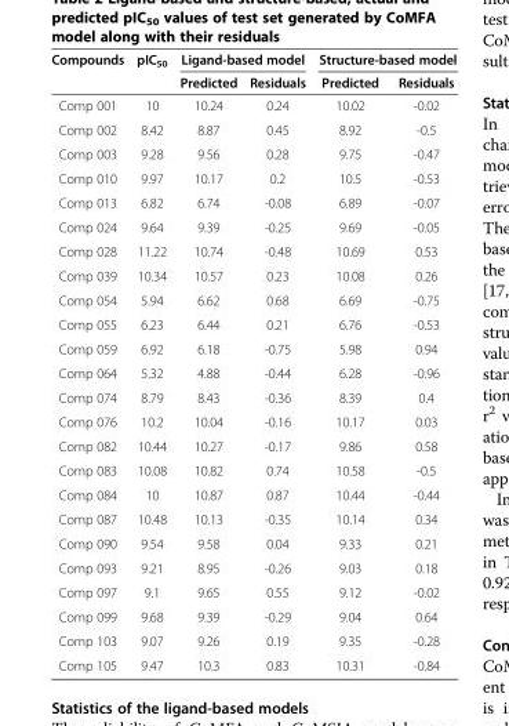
<table><thead><tr><td rowspan="2">Compounds</td><td rowspan="2">pIC<sub>50</sub></td><td colspan="2">Ligand-based model</td><td colspan="2">Structure-based model</td></tr><tr><td>Predicted</td><td>Residuals</td><td>Predicted</td><td>Residuals</td></tr></thead><tbody><tr><td>Comp 001</td><td>10</td><td>10.24</td><td>0.24</td><td>10.02</td><td>-0.02</td></tr><tr><td>Comp 002</td><td>8.42</td><td>8.87</td><td>0.45</td><td>8.92</td><td>-0.5</td></tr><tr><td>Comp 003</td><td>9.28</td><td>9.56</td><td>0.28</td><td>9.75</td><td>-0.47</td></tr><tr><td>Comp 010</td><td>9.97</td><td>10.17</td><td>0.2</td><td>10.5</td><td>-0.53</td></tr><tr><td>Comp 013</td><td>6.82</td><td>6.74</td><td>-0.08</td><td>6.89</td><td>-0.07</td></tr><tr><td>Comp 024</td><td>9.64</td><td>9.39</td><td>-0.25</td><td>9.69</td><td>-0.05</td></tr><tr><td>Comp 028</td><td>11.22</td><td>10.74</td><td>-0.48</td><td>10.69</td><td>0.53</td></tr><tr><td>Comp 039</td><td>10.34</td><td>10.57</td><td>0.23</td><td>10.08</td><td>0.26</td></tr><tr><td>Comp 054</td><td>5.94</td><td>6.62</td><td>0.68</td><td>6.69</td><td>-0.75</td></tr><tr><td>Comp 055</td><td>6.23</td><td>6.44</td><td>0.21</td><td>6.76</td><td>-0.53</td></tr><tr><td>Comp 059</td><td>6.92</td><td>6.18</td><td>-0.75</td><td>5.98</td><td>0.94</td></tr><tr><td>Comp 064</td><td>5.32</td><td>4.88</td><td>-0.44</td><td>6.28</td><td>-0.96</td></tr><tr><td>Comp 074</td><td>8.79</td><td>8.43</td><td>-0.36</td><td>8.39</td><td>0.4</td></tr><tr><td>Comp 076</td><td>10.2</td><td>10.04</td><td>-0.16</td><td>10.17</td><td>0.03</td></tr><tr><td>Comp 082</td><td>10.44</td><td>10.27</td><td>-0.17</td><td>9.86</td><td>0.58</td></tr><tr><td>Comp 083</td><td>10.08</td><td>10.82</td><td>0.74</td><td>10.58</td><td>-0.5</td></tr><tr><td>Comp 084</td><td>10</td><td>10.87</td><td>0.87</td><td>10.44</td><td>-0.44</td></tr><tr><td>Comp 087</td><td>10.48</td><td>10.13</td><td>-0.35</td><td>10.14</td><td>0.34</td></tr><tr><td>Comp 090</td><td>9.54</td><td>9.58</td><td>0.04</td><td>9.33</td><td>0.21</td></tr><tr><td>Comp 093</td><td>9.21</td><td>8.95</td><td>-0.26</td><td>9.03</td><td>0.18</td></tr><tr><td>Comp 097</td><td>9.1</td><td>9.65</td><td>0.55</td><td>9.12</td><td>-0.02</td></tr><tr><td>Comp 099</td><td>9.68</td><td>9.39</td><td>-0.29</td><td>9.04</td><td>0.64</td></tr><tr><td>Comp 103</td><td>9.07</td><td>9.26</td><td>0.19</td><td>9.35</td><td>-0.28</td></tr><tr><td>Comp 105</td><td>9.47</td><td>10.3</td><td>0.83</td><td>10.31</td><td>-0.84</td></tr></tbody></table>